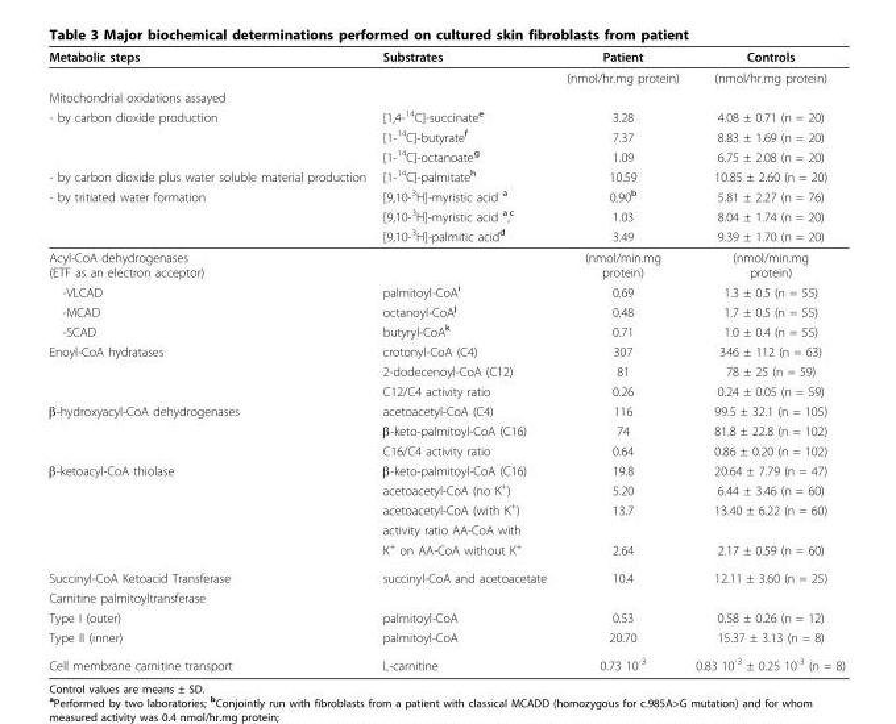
<table><thead><tr><td>Metabolic steps</td><td>Substrates</td><td>Patient</td><td>Controls</td></tr></thead><tbody><tr><td></td><td></td><td>(nmol/hr.mg protein)</td><td>(nmol/hr.mg protein)</td></tr><tr><td colspan="4">Mitochondrial oxidations assayed</td></tr><tr><td rowspan="3">- by carbon dioxide production</td><td>[1,4-<sup>14</sup>C]-succinate<sup>e</sup></td><td>3.28</td><td>4.08 ± 0.71 (n = 20)</td></tr><tr><td>[1-<sup>14</sup>C]-butyrate<sup>f</sup></td><td>7.37</td><td>8.83 ± 1.69 (n = 20)</td></tr><tr><td>[1-<sup>14</sup>C]-octanoate<sup>g</sup></td><td>1.09</td><td>6.75 ± 2.08 (n = 20)</td></tr><tr><td>- by carbon dioxide plus water soluble material production</td><td>[1-<sup>14</sup>C]-palmitate<sup>h</sup></td><td>10.59</td><td>10.85 ± 2.60 (n = 20)</td></tr><tr><td rowspan="3">- by tritiated water formation</td><td>[9,10-<sup>3</sup>H]-myristic acid <sup>a</sup></td><td>0.90<sup>b</sup></td><td>5.81 ± 2.27 (n = 76)</td></tr><tr><td>[9,10-<sup>3</sup>H]-myristic acid <sup>a</sup>,<sup>c</sup></td><td>1.03</td><td>8.04 ± 1.74 (n = 20)</td></tr><tr><td>[9,10-<sup>3</sup>H]-palmitic acid<sup>d</sup></td><td>3.49</td><td>9.39 ± 1.70 (n = 20)</td></tr><tr><td>Acyl-CoA dehydrogenases (ETF as an electron acceptor)</td><td></td><td>(nmol/min.mg protein)</td><td>(nmol/min.mg protein)</td></tr><tr><td>-VLCAD</td><td>palmitoyl-CoA<sup>i</sup></td><td>0.69</td><td>1.3 ± 0.5 (n = 55)</td></tr><tr><td>-MCAD</td><td>octanoyl-CoA<sup>j</sup></td><td>0.48</td><td>1.7 ± 0.5 (n = 55)</td></tr><tr><td>-SCAD</td><td>butyryl-CoA<sup>k</sup></td><td>0.71</td><td>1.0 ± 0.4 (n = 55)</td></tr><tr><td rowspan="3">Enoyl-CoA hydratases</td><td>crotonyl-CoA (C4)</td><td>307</td><td>346 ± 112 (n = 63)</td></tr><tr><td>2-dodecenoyl-CoA (C12)</td><td>81</td><td>78 ± 25 (n = 59)</td></tr><tr><td>C12/C4 activity ratio</td><td>0.26</td><td>0.24 ± 0.05 (n = 59)</td></tr><tr><td rowspan="3">β-hydroxyacyl-CoA dehydrogenases</td><td>acetoacetyl-CoA (C4)</td><td>116</td><td>99.5 ± 32.1 (n = 105)</td></tr><tr><td>β-keto-palmitoyl-CoA (C16)</td><td>74</td><td>81.8 ± 22.8 (n = 102)</td></tr><tr><td>C16/C4 activity ratio</td><td>0.64</td><td>0.86 ± 0.20 (n = 102)</td></tr><tr><td rowspan="5">β-ketoacyl-CoA thiolase</td><td>β-keto-palmitoyl-CoA (C16)</td><td>19.8</td><td>20.64 ± 7.79 (n = 47)</td></tr><tr><td>acetoacetyl-CoA (no K<sup>+</sup>)</td><td>5.20</td><td>6.44 ± 3.46 (n = 60)</td></tr><tr><td>acetoacetyl-CoA (with K<sup>+</sup>)</td><td>13.7</td><td>13.40 ± 6.22 (n = 60)</td></tr><tr><td>activity ratio AA-CoA with</td><td></td><td></td></tr><tr><td>K<sup>+</sup> on AA-CoA without K<sup>+</sup></td><td>2.64</td><td>2.17 ± 0.59 (n = 60)</td></tr><tr><td>Succinyl-CoA Ketoacid Transferase</td><td>succinyl-CoA and acetoacetate</td><td>10.4</td><td>12.11 ± 3.60 (n = 25)</td></tr><tr><td colspan="4">Carnitine palmitoyltransferase</td></tr><tr><td>Type I (outer)</td><td>palmitoyl-CoA</td><td>0.53</td><td>0.58 ± 0.26 (n = 12)</td></tr><tr><td>Type II (inner)</td><td>palmitoyl-CoA</td><td>20.70</td><td>15.37 ± 3.13 (n = 8)</td></tr><tr><td>Cell membrane carnitine transport</td><td>L-carnitine</td><td>0.73 10<sup>-3</sup></td><td>0.83 10<sup>-3</sup> ± 0.25 10<sup>-3</sup> (n = 8)</td></tr></tbody></table>